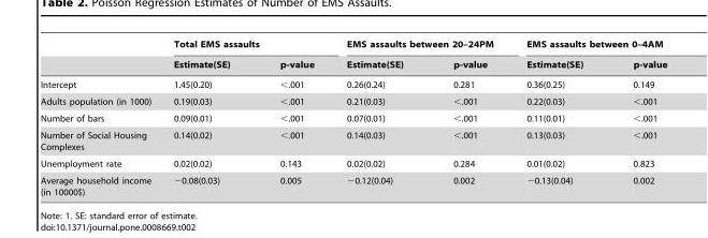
<table><thead><tr><td rowspan="2"></td><td colspan="2">Total EMS assaults</td><td colspan="2">EMS assaults between 20–24PM</td><td colspan="2">EMS assaults between 0–4AM</td></tr><tr><td>Estimate(SE)</td><td>p-value</td><td>Estimate(SE)</td><td>p-value</td><td>Estimate(SE)</td><td>p-value</td></tr></thead><tbody><tr><td>Intercept</td><td>1.45(0.20)</td><td>&lt;.001</td><td>0.26(0.24)</td><td>0.281</td><td>0.36(0.25)</td><td>0.149</td></tr><tr><td>Adults population (in 1000)</td><td>0.19(0.03)</td><td>&lt;.001</td><td>0.21(0.03)</td><td>&lt;.001</td><td>0.22(0.03)</td><td>&lt;.001</td></tr><tr><td>Number of bars</td><td>0.09(0.01)</td><td>&lt;.001</td><td>0.07(0.01)</td><td>&lt;.001</td><td>0.11(0.01)</td><td>&lt;.001</td></tr><tr><td>Number of Social Housing Complexes</td><td>0.14(0.02)</td><td>&lt;.001</td><td>0.14(0.03)</td><td>&lt;.001</td><td>0.13(0.03)</td><td>&lt;.001</td></tr><tr><td>Unemployment rate</td><td>0.02(0.02)</td><td>0.143</td><td>0.02(0.02)</td><td>0.284</td><td>0.01(0.02)</td><td>0.823</td></tr><tr><td>Average household income (in 10000$)</td><td>−0.08(0.03)</td><td>0.005</td><td>−0.12(0.04)</td><td>0.002</td><td>−0.13(0.04)</td><td>0.002</td></tr></tbody></table>